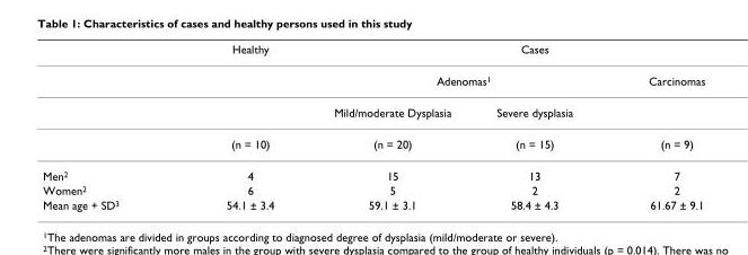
<table><thead><tr><td rowspan="3"></td><td rowspan="3">Healthy</td><td colspan="3">Cases</td></tr><tr><td colspan="2">Adenomas1</td><td rowspan="2">Carcinomas</td></tr><tr><td>Mild/moderate Dysplasia</td><td>Severe dysplasia</td></tr></thead><tbody><tr><td></td><td>(n = 10)</td><td>(n = 20)</td><td>(n = 15)</td><td>(n = 9)</td></tr><tr><td>Men2</td><td>4</td><td>15</td><td>13</td><td>7</td></tr><tr><td>Women2</td><td>6</td><td>5</td><td>2</td><td>2</td></tr><tr><td>Mean age + SD3</td><td>54.1 ± 3.4</td><td>59.1 ± 3.1</td><td>58.4 ± 4.3</td><td>61.67 ± 9.1</td></tr></tbody></table>